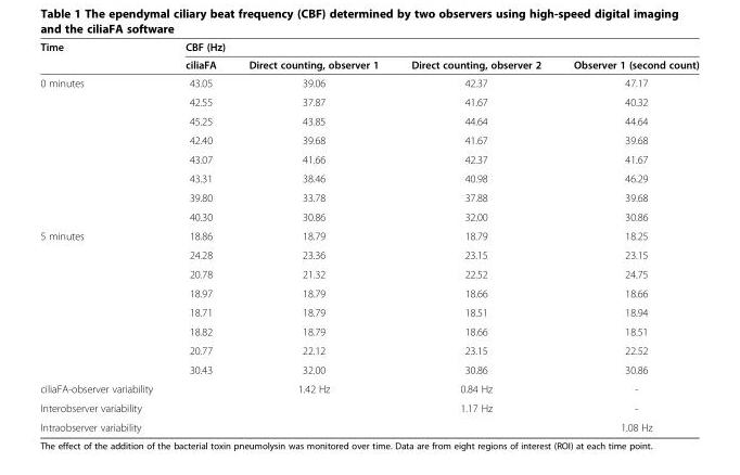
<table><thead><tr><td rowspan="2">Time</td><td colspan="4">CBF (Hz)</td></tr><tr><td>ciliaFA</td><td>Direct counting, observer 1</td><td>Direct counting, observer 2</td><td>Observer 1 (second count)</td></tr></thead><tbody><tr><td rowspan="8">0 minutes</td><td>43.05</td><td>39.06</td><td>42.37</td><td>47.17</td></tr><tr><td>42.55</td><td>37.87</td><td>41.67</td><td>40.32</td></tr><tr><td>45.25</td><td>43.85</td><td>44.64</td><td>44.64</td></tr><tr><td>42.40</td><td>39.68</td><td>41.67</td><td>39.68</td></tr><tr><td>43.07</td><td>41.66</td><td>42.37</td><td>41.67</td></tr><tr><td>43.31</td><td>38.46</td><td>40.98</td><td>46.29</td></tr><tr><td>39.80</td><td>33.78</td><td>37.88</td><td>39.68</td></tr><tr><td>40.30</td><td>30.86</td><td>32.00</td><td>30.86</td></tr><tr><td rowspan="8">5 minutes</td><td>18.86</td><td>18.79</td><td>18.79</td><td>18.25</td></tr><tr><td>24.28</td><td>23.36</td><td>23.15</td><td>23.15</td></tr><tr><td>20.78</td><td>21.32</td><td>22.52</td><td>24.75</td></tr><tr><td>18.97</td><td>18.79</td><td>18.66</td><td>18.66</td></tr><tr><td>18.71</td><td>18.79</td><td>18.51</td><td>18.94</td></tr><tr><td>18.82</td><td>18.79</td><td>18.66</td><td>18.51</td></tr><tr><td>20.77</td><td>22.12</td><td>23.15</td><td>22.52</td></tr><tr><td>30.43</td><td>32.00</td><td>30.86</td><td>30.86</td></tr><tr><td>ciliaFA-observer variability</td><td></td><td>1.42 Hz</td><td>0.84 Hz</td><td>-</td></tr><tr><td>Interobserver variability</td><td></td><td></td><td>1.17 Hz</td><td>-</td></tr><tr><td>Intraobserver variability</td><td></td><td></td><td></td><td>1.08 Hz</td></tr></tbody></table>